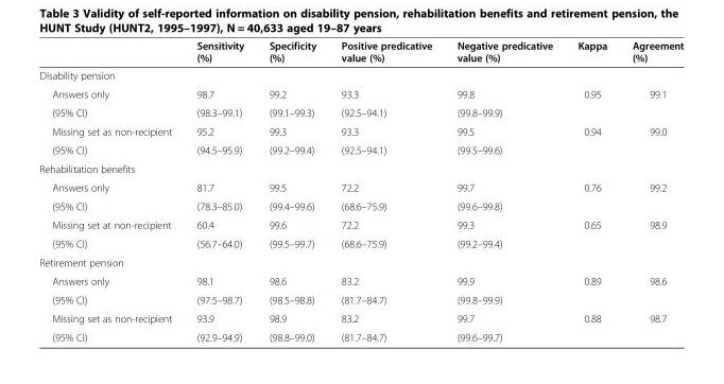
<table><thead><tr><td></td><td>Sensitivity (%)</td><td>Specificity (%)</td><td>Positive predicative value (%)</td><td>Negative predicative value (%)</td><td>Kappa</td><td>Agreement (%)</td></tr></thead><tbody><tr><td colspan="7">Disability pension</td></tr><tr><td>Answers only</td><td>98.7</td><td>99.2</td><td>93.3</td><td>99.8</td><td rowspan="2">0.95</td><td rowspan="2">99.1</td></tr><tr><td>(95% CI)</td><td>(98.3–99.1)</td><td>(99.1–99.3)</td><td>(92.5–94.1)</td><td>(99.8–99.9)</td></tr><tr><td>Missing set as non-recipient</td><td>95.2</td><td>99.3</td><td>93.3</td><td>99.5</td><td rowspan="2">0.94</td><td rowspan="2">99.0</td></tr><tr><td>(95% CI)</td><td>(94.5–95.9)</td><td>(99.2–99.4)</td><td>(92.5–94.1)</td><td>(99.5–99.6)</td></tr><tr><td colspan="7">Rehabilitation benefits</td></tr><tr><td>Answers only</td><td>81.7</td><td>99.5</td><td>72.2</td><td>99.7</td><td rowspan="2">0.76</td><td rowspan="2">99.2</td></tr><tr><td>(95% CI)</td><td>(78.3–85.0)</td><td>(99.4–99.6)</td><td>(68.6–75.9)</td><td>(99.6–99.8)</td></tr><tr><td>Missing set at non-recipient</td><td>60.4</td><td>99.6</td><td>72.2</td><td>99.3</td><td rowspan="2">0.65</td><td rowspan="2">98.9</td></tr><tr><td>(95% CI)</td><td>(56.7–64.0)</td><td>(99.5–99.7)</td><td>(68.6–75.9)</td><td>(99.2–99.4)</td></tr><tr><td colspan="7">Retirement pension</td></tr><tr><td>Answers only</td><td>98.1</td><td>98.6</td><td>83.2</td><td>99.9</td><td rowspan="2">0.89</td><td rowspan="2">98.6</td></tr><tr><td>(95% CI)</td><td>(97.5–98.7)</td><td>(98.5–98.8)</td><td>(81.7–84.7)</td><td>(99.8–99.9)</td></tr><tr><td>Missing set as non-recipient</td><td>93.9</td><td>98.9</td><td>83.2</td><td>99.7</td><td>0.88</td><td>98.7</td></tr><tr><td>(95% CI)</td><td>(92.9–94.9)</td><td>(98.8–99.0)</td><td>(81.7–84.7)</td><td>(99.6–99.7)</td><td></td><td></td></tr></tbody></table>